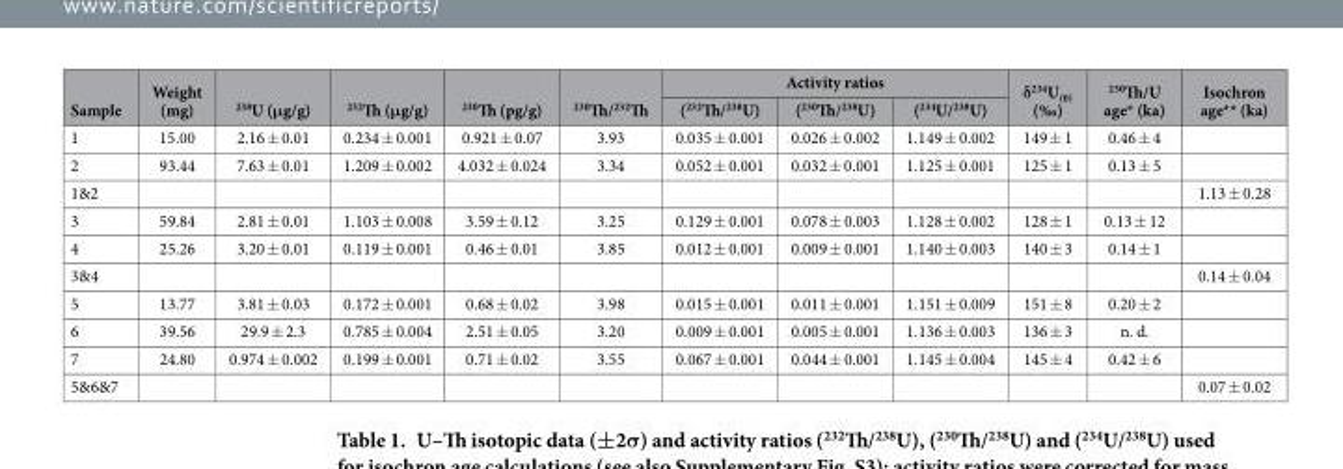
<table><thead><tr><td rowspan="2">Sample</td><td rowspan="2">Weight (mg)</td><td rowspan="2"><sup>238</sup>U (μg/g)</td><td rowspan="2"><sup>232</sup>Th (μg/g)</td><td rowspan="2"><sup>230</sup>Th (pg/g)</td><td rowspan="2"><sup>230</sup>Th/<sup>232</sup>Th</td><td colspan="3">Activity ratios</td><td rowspan="2">δ<sup>234</sup>U<sub>(0)</sub> (‰)</td><td rowspan="2"><sup>230</sup>Th/U age* (ka)</td><td rowspan="2">Isochron age** (ka)</td></tr><tr><td>(<sup>232</sup>Th/<sup>238</sup>U)</td><td>(<sup>230</sup>Th/<sup>238</sup>U)</td><td>(<sup>234</sup>U/<sup>238</sup>U)</td></tr></thead><tbody><tr><td>1</td><td>15.00</td><td>2.16 ± 0.01</td><td>0.234 ± 0.001</td><td>0.921 ± 0.07</td><td>3.93</td><td>0.035 ± 0.001</td><td>0.026 ± 0.002</td><td>1.149 ± 0.002</td><td>149 ± 1</td><td>0.46 ± 4</td><td></td></tr><tr><td>2</td><td>93.44</td><td>7.63 ± 0.01</td><td>1.209 ± 0.002</td><td>4.032 ± 0.024</td><td>3.34</td><td>0.052 ± 0.001</td><td>0.032 ± 0.001</td><td>1.125 ± 0.001</td><td>125 ± 1</td><td>0.13 ± 5</td><td></td></tr><tr><td>1&amp;2</td><td></td><td></td><td></td><td></td><td></td><td></td><td></td><td></td><td></td><td></td><td>1.13 ± 0.28</td></tr><tr><td>3</td><td>59.84</td><td>2.81 ± 0.01</td><td>1.103 ± 0.008</td><td>3.59 ± 0.12</td><td>3.25</td><td>0.129 ± 0.001</td><td>0.078 ± 0.003</td><td>1.128 ± 0.002</td><td>128 ± 1</td><td>0.13 ± 12</td><td></td></tr><tr><td>4</td><td>25.26</td><td>3.20 ± 0.01</td><td>0.119 ± 0.001</td><td>0.46 ± 0.01</td><td>3.85</td><td>0.012 ± 0.001</td><td>0.009 ± 0.001</td><td>1.140 ± 0.003</td><td>140 ± 3</td><td>0.14 ± 1</td><td></td></tr><tr><td>3&amp;4</td><td></td><td></td><td></td><td></td><td></td><td></td><td></td><td></td><td></td><td></td><td>0.14 ± 0.04</td></tr><tr><td>5</td><td>13.77</td><td>3.81 ± 0.03</td><td>0.172 ± 0.001</td><td>0.68 ± 0.02</td><td>3.98</td><td>0.015 ± 0.001</td><td>0.011 ± 0.001</td><td>1.151 ± 0.009</td><td>151 ± 8</td><td>0.20 ± 2</td><td></td></tr><tr><td>6</td><td>39.56</td><td>29.9 ± 2.3</td><td>0.785 ± 0.004</td><td>2.51 ± 0.05</td><td>3.20</td><td>0.009 ± 0.001</td><td>0.005 ± 0.001</td><td>1.136 ± 0.003</td><td>136 ± 3</td><td>n. d.</td><td></td></tr><tr><td>7</td><td>24.80</td><td>0.974 ± 0.002</td><td>0.199 ± 0.001</td><td>0.71 ± 0.02</td><td>3.55</td><td>0.067 ± 0.001</td><td>0.044 ± 0.001</td><td>1.145 ± 0.004</td><td>145 ± 4</td><td>0.42 ± 6</td><td></td></tr><tr><td>5&amp;6&amp;7</td><td></td><td></td><td></td><td></td><td></td><td></td><td></td><td></td><td></td><td></td><td>0.07 ± 0.02</td></tr></tbody></table>